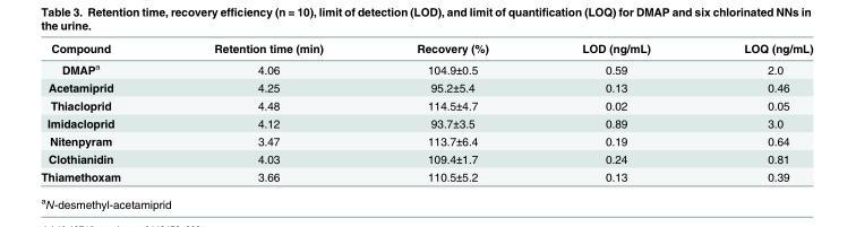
<table><thead><tr><td>Compound</td><td>Retention time (min)</td><td>Recovery (%)</td><td>LOD (ng/mL)</td><td>LOQ (ng/mL)</td></tr></thead><tbody><tr><td>DMAP<sup>a</sup></td><td>4.06</td><td>104.9±0.5</td><td>0.59</td><td>2.0</td></tr><tr><td>Acetamiprid</td><td>4.25</td><td>95.2±5.4</td><td>0.13</td><td>0.46</td></tr><tr><td>Thiacloprid</td><td>4.48</td><td>114.5±4.7</td><td>0.02</td><td>0.05</td></tr><tr><td>Imidacloprid</td><td>4.12</td><td>93.7±3.5</td><td>0.89</td><td>3.0</td></tr><tr><td>Nitenpyram</td><td>3.47</td><td>113.7±6.4</td><td>0.19</td><td>0.64</td></tr><tr><td>Clothianidin</td><td>4.03</td><td>109.4±1.7</td><td>0.24</td><td>0.81</td></tr><tr><td>Thiamethoxam</td><td>3.66</td><td>110.5±5.2</td><td>0.13</td><td>0.39</td></tr></tbody></table>